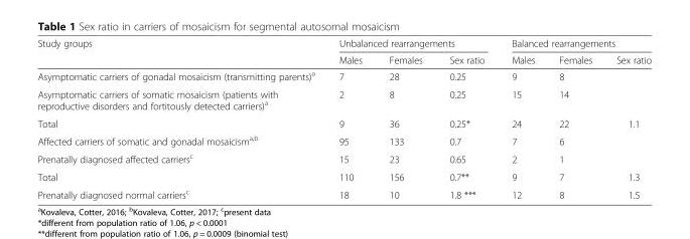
<table><thead><tr><td rowspan="2">Study groups</td><td colspan="3">Unbalanced rearrangements</td><td colspan="3">Balanced rearrangements</td></tr><tr><td>Males</td><td>Females</td><td>Sex ratio</td><td>Males</td><td>Females</td><td>Sex ratio</td></tr></thead><tbody><tr><td>Asymptomatic carriers of gonadal mosaicism (transmitting parents)<sup>a</sup></td><td>7</td><td>28</td><td>0.25</td><td>9</td><td>8</td><td></td></tr><tr><td>Asymptomatic carriers of somatic mosaicism (patients with reproductive disorders and fortitously detected carriers)<sup>a</sup></td><td>2</td><td>8</td><td>0.25</td><td>15</td><td>14</td><td></td></tr><tr><td>Total</td><td>9</td><td>36</td><td>0.25*</td><td>24</td><td>22</td><td>1.1</td></tr><tr><td>Affected carriers of somatic and gonadal mosaicism<sup>a,b</sup></td><td>95</td><td>133</td><td>0.7</td><td>7</td><td>6</td><td></td></tr><tr><td>Prenatally diagnosed affected carriers<sup>c</sup></td><td>15</td><td>23</td><td>0.65</td><td>2</td><td>1</td><td></td></tr><tr><td>Total</td><td>110</td><td>156</td><td>0.7**</td><td>9</td><td>7</td><td>1.3</td></tr><tr><td>Prenatally diagnosed normal carriers<sup>c</sup></td><td>18</td><td>10</td><td>1.8 ***</td><td>12</td><td>8</td><td>1.5</td></tr></tbody></table>